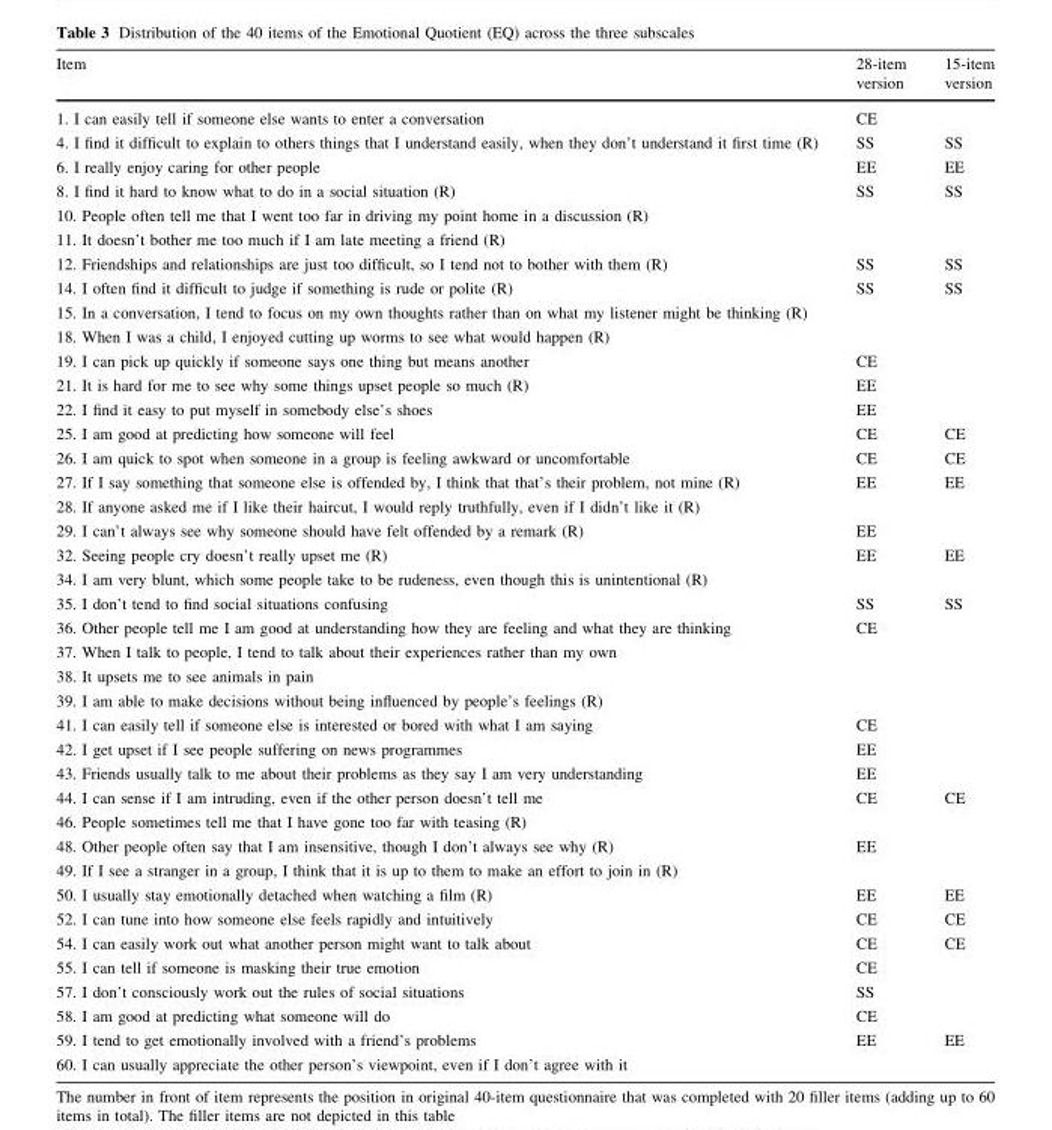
<table><thead><tr><td>Item</td><td>28-item version</td><td>15-item version</td></tr></thead><tbody><tr><td>1. I can easily tell if someone else wants to enter a conversation</td><td>CE</td><td></td></tr><tr><td>4. I find it difficult to explain to others things that I understand easily, when they don’t understand it first time (R)</td><td>SS</td><td>SS</td></tr><tr><td>6. I really enjoy caring for other people</td><td>EE</td><td>EE</td></tr><tr><td>8. I find it hard to know what to do in a social situation (R)</td><td>SS</td><td>SS</td></tr><tr><td colspan="3">10. People often tell me that I went too far in driving my point home in a discussion (R)</td></tr><tr><td colspan="3">11. It doesn’t bother me too much if I am late meeting a friend (R)</td></tr><tr><td>12. Friendships and relationships are just too difficult, so I tend not to bother with them (R)</td><td>SS</td><td>SS</td></tr><tr><td>14. I often find it difficult to judge if something is rude or polite (R)</td><td>SS</td><td>SS</td></tr><tr><td colspan="3">15. In a conversation, I tend to focus on my own thoughts rather than on what my listener might be thinking (R)</td></tr><tr><td colspan="3">18. When I was a child, I enjoyed cutting up worms to see what would happen (R)</td></tr><tr><td>19. I can pick up quickly if someone says one thing but means another</td><td>CE</td><td></td></tr><tr><td>21. It is hard for me to see why some things upset people so much (R)</td><td>EE</td><td></td></tr><tr><td>22. I find it easy to put myself in somebody else’s shoes</td><td>EE</td><td></td></tr><tr><td>25. I am good at predicting how someone will feel</td><td>CE</td><td>CE</td></tr><tr><td>26. I am quick to spot when someone in a group is feeling awkward or uncomfortable</td><td>CE</td><td>CE</td></tr><tr><td>27. If I say something that someone else is offended by, I think that that’s their problem, not mine (R)</td><td>EE</td><td>EE</td></tr><tr><td colspan="3">28. If anyone asked me if I like their haircut, I would reply truthfully, even if I didn’t like it (R)</td></tr><tr><td>29. I can’t always see why someone should have felt offended by a remark (R)</td><td>EE</td><td></td></tr><tr><td>32. Seeing people cry doesn’t really upset me (R)</td><td>EE</td><td>EE</td></tr><tr><td colspan="3">34. I am very blunt, which some people take to be rudeness, even though this is unintentional (R)</td></tr><tr><td>35. I don’t tend to find social situations confusing</td><td>SS</td><td>SS</td></tr><tr><td>36. Other people tell me I am good at understanding how they are feeling and what they are thinking</td><td>CE</td><td></td></tr><tr><td colspan="3">37. When I talk to people, I tend to talk about their experiences rather than my own</td></tr><tr><td colspan="3">38. It upsets me to see animals in pain</td></tr><tr><td colspan="3">39. I am able to make decisions without being influenced by people’s feelings (R)</td></tr><tr><td>41. I can easily tell if someone else is interested or bored with what I am saying</td><td>CE</td><td></td></tr><tr><td>42. I get upset if I see people suffering on news programmes</td><td>EE</td><td></td></tr><tr><td>43. Friends usually talk to me about their problems as they say I am very understanding</td><td>EE</td><td></td></tr><tr><td>44. I can sense if I am intruding, even if the other person doesn’t tell me</td><td>CE</td><td>CE</td></tr><tr><td colspan="3">46. People sometimes tell me that I have gone too far with teasing (R)</td></tr><tr><td>48. Other people often say that I am insensitive, though I don’t always see why (R)</td><td>EE</td><td></td></tr><tr><td colspan="3">49. If I see a stranger in a group, I think that it is up to them to make an effort to join in (R)</td></tr><tr><td>50. I usually stay emotionally detached when watching a film (R)</td><td>EE</td><td>EE</td></tr><tr><td>52. I can tune into how someone else feels rapidly and intuitively</td><td>CE</td><td>CE</td></tr><tr><td>54. I can easily work out what another person might want to talk about</td><td>CE</td><td>CE</td></tr><tr><td>55. I can tell if someone is masking their true emotion</td><td>CE</td><td></td></tr><tr><td>57. I don’t consciously work out the rules of social situations</td><td>SS</td><td></td></tr><tr><td>58. I am good at predicting what someone will do</td><td>CE</td><td></td></tr><tr><td>59. I tend to get emotionally involved with a friend’s problems</td><td>EE</td><td>EE</td></tr><tr><td>60. I can usually appreciate the other person’s viewpoint, even if I don’t agree with it</td><td></td><td></td></tr></tbody></table>